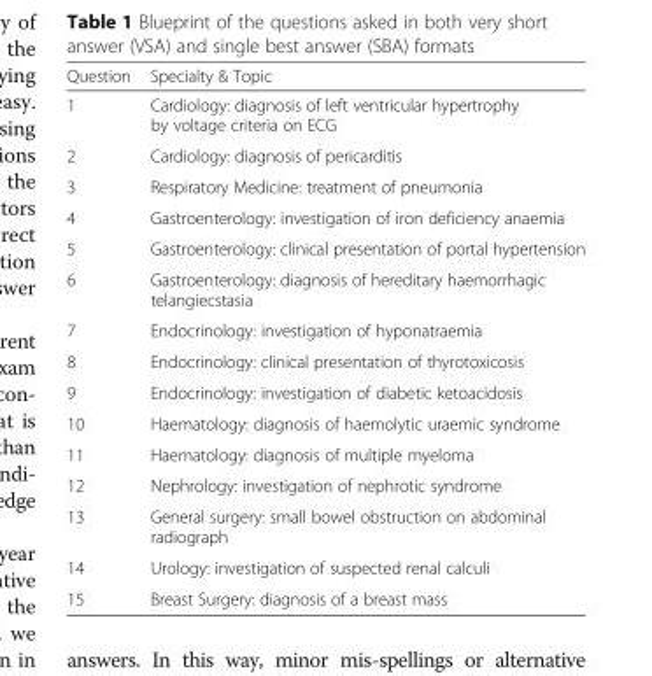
<table><thead><tr><td>Question</td><td>Specialty &amp; Topic</td></tr></thead><tbody><tr><td>1</td><td>Cardiology: diagnosis of left ventricular hypertrophy by voltage criteria on ECG</td></tr><tr><td>2</td><td>Cardiology: diagnosis of pericarditis</td></tr><tr><td>3</td><td>Respiratory Medicine: treatment of pneumonia</td></tr><tr><td>4</td><td>Gastroenterology: investigation of iron deficiency anaemia</td></tr><tr><td>5</td><td>Gastroenterology: clinical presentation of portal hypertension</td></tr><tr><td>6</td><td>Gastroenterology: diagnosis of hereditary haemorrhagic telangiecstasia</td></tr><tr><td>7</td><td>Endocrinology: investigation of hyponatraemia</td></tr><tr><td>8</td><td>Endocrinology: clinical presentation of thyrotoxicosis</td></tr><tr><td>9</td><td>Endocrinology: investigation of diabetic ketoacidosis</td></tr><tr><td>10</td><td>Haematology: diagnosis of haemolytic uraemic syndrome</td></tr><tr><td>11</td><td>Haematology: diagnosis of multiple myeloma</td></tr><tr><td>12</td><td>Nephrology: investigation of nephrotic syndrome</td></tr><tr><td>13</td><td>General surgery: small bowel obstruction on abdominal radiograph</td></tr><tr><td>14</td><td>Urology: investigation of suspected renal calculi</td></tr><tr><td>15</td><td>Breast Surgery: diagnosis of a breast mass</td></tr></tbody></table>